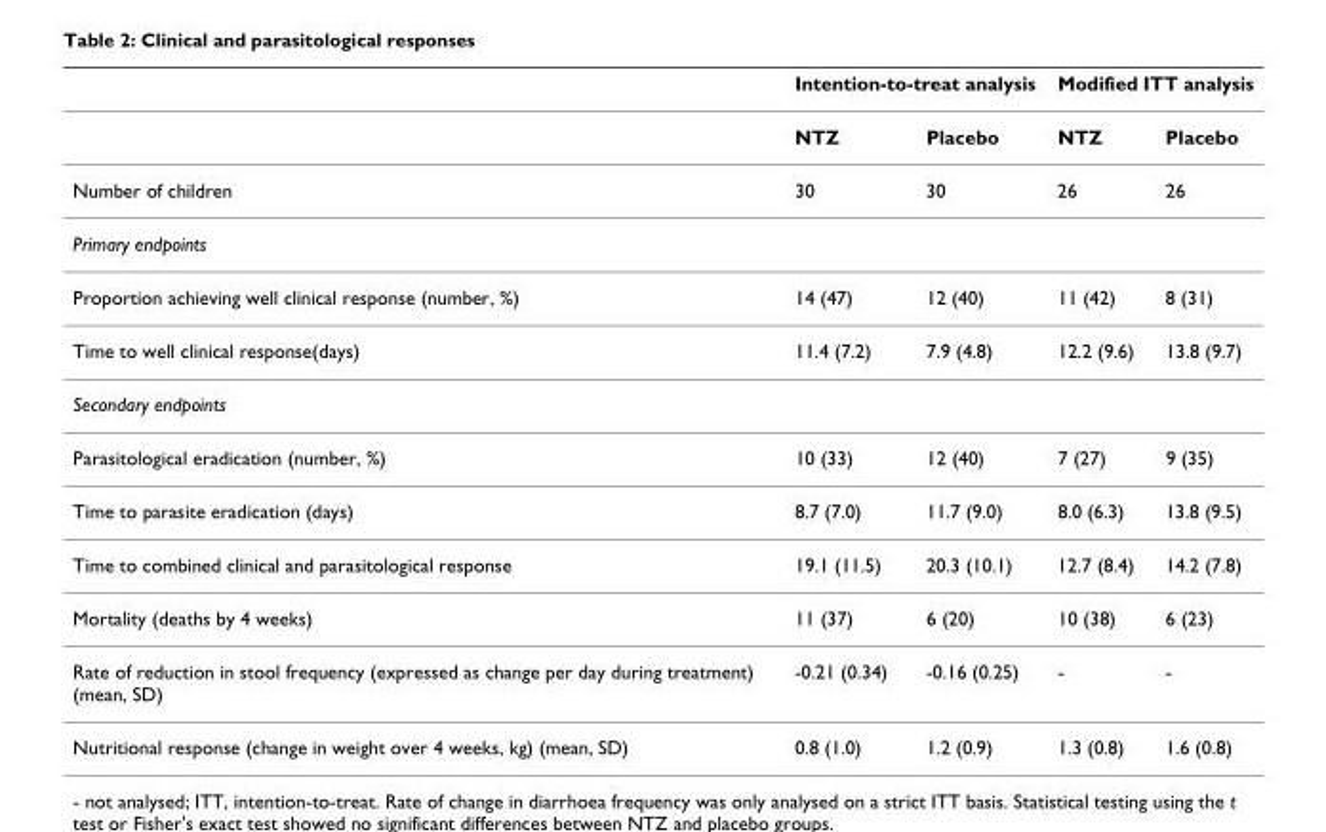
<table><thead><tr><td rowspan="2"></td><td colspan="2">Intention-to-treat analysis</td><td colspan="2">Modified ITT analysis</td></tr><tr><td>NTZ</td><td>Placebo</td><td>NTZ</td><td>Placebo</td></tr></thead><tbody><tr><td>Number of children</td><td>30</td><td>30</td><td>26</td><td>26</td></tr><tr><td colspan="5">Primary endpoints</td></tr><tr><td>Proportion achieving well clinical response (number, %)</td><td>14 (47)</td><td>12 (40)</td><td>11 (42)</td><td>8 (31)</td></tr><tr><td>Time to well clinical response(days)</td><td>11.4 (7.2)</td><td>7.9 (4.8)</td><td>12.2 (9.6)</td><td>13.8 (9.7)</td></tr><tr><td colspan="5">Secondary endpoints</td></tr><tr><td>Parasitological eradication (number, %)</td><td>10 (33)</td><td>12 (40)</td><td>7 (27)</td><td>9 (35)</td></tr><tr><td>Time to parasite eradication (days)</td><td>8.7 (7.0)</td><td>11.7 (9.0)</td><td>8.0 (6.3)</td><td>13.8 (9.5)</td></tr><tr><td>Time to combined clinical and parasitological response</td><td>19.1 (11.5)</td><td>20.3 (10.1)</td><td>12.7 (8.4)</td><td>14.2 (7.8)</td></tr><tr><td>Mortality (deaths by 4 weeks)</td><td>11 (37)</td><td>6 (20)</td><td>10 (38)</td><td>6 (23)</td></tr><tr><td>Rate of reduction in stool frequency (expressed as change per day during treatment) (mean, SD)</td><td>-0.21 (0.34)</td><td>-0.16 (0.25)</td><td>-</td><td>-</td></tr><tr><td>Nutritional response (change in weight over 4 weeks, kg) (mean, SD)</td><td>0.8 (1.0)</td><td>1.2 (0.9)</td><td>1.3 (0.8)</td><td>1.6 (0.8)</td></tr></tbody></table>